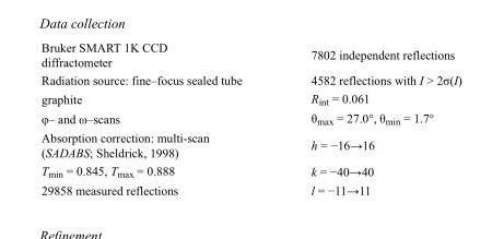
<table><tbody><tr><td>Bruker SMART 1K CCD diffractometer</td><td>7802 independent reflections</td></tr><tr><td>Radiation source: fine–focus sealed tube</td><td>4582 reflections with I &gt; 2σ(I)</td></tr><tr><td>graphite</td><td>R<sub>int</sub> = 0.061</td></tr><tr><td>φ– and ω–scans</td><td>θ<sub>max</sub> = 27.0°, θ<sub>min</sub> = 1.7°</td></tr><tr><td>Absorption correction: multi-scan (SADABS; Sheldrick, 1998)</td><td>h = −16→16</td></tr><tr><td>T<sub>min</sub> = 0.845, T<sub>max</sub> = 0.888</td><td>k = −40→40</td></tr><tr><td>29858 measured reflections</td><td>l = −11→11</td></tr></tbody></table>